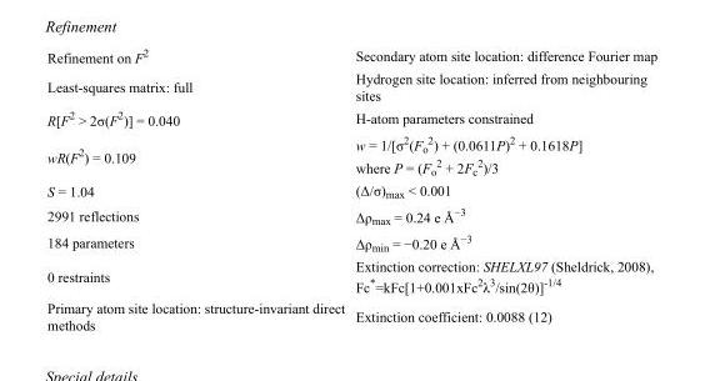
<table><tbody><tr><td>Refinement on F<sup>2</sup></td><td>Secondary atom site location: difference Fourier map</td></tr><tr><td>Least-squares matrix: full</td><td>Hydrogen site location: inferred from neighbouring sites</td></tr><tr><td>R[F<sup>2</sup> &gt; 2σ(F<sup>2</sup>)] = 0.040</td><td>H-atom parameters constrained</td></tr><tr><td>wR(F<sup>2</sup>) = 0.109</td><td>w = 1/[σ<sup>2</sup>(F<sub>o</sub> <sup>2</sup>) + (0.0611P)<sup>2</sup> + 0.1618P] where P = (F<sub>o</sub> <sup>2</sup> + 2F<sub>c</sub> <sup>2</sup>)/3</td></tr><tr><td>S = 1.04</td><td>(Δ/σ)<sub>max</sub> &lt; 0.001</td></tr><tr><td>2991 reflections</td><td>Δρ<sub>max</sub> = 0.24 e Å<sup>−3</sup></td></tr><tr><td>184 parameters</td><td>Δρ<sub>min</sub> = −0.20 e Å<sup>−3</sup></td></tr><tr><td>0 restraints</td><td>Extinction correction: SHELXL97 (Sheldrick, 2008), Fc*=kFc[1+0.001xFc<sup>2</sup>λ<sup>3</sup>/sin(2θ)]<sup>-1/4</sup></td></tr><tr><td>Primary atom site location: structure-invariant direct methods</td><td>Extinction coefficient: 0.0088 (12)</td></tr></tbody></table>